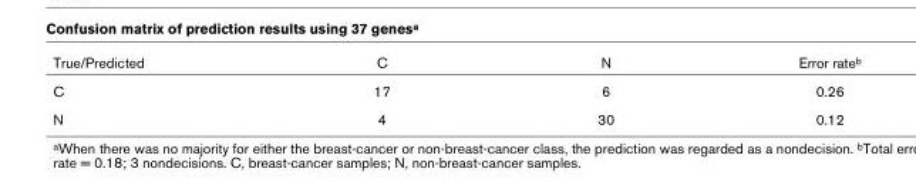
<table><thead><tr><td>True/Predicted</td><td>C</td><td>N</td><td>Error rateb</td></tr></thead><tbody><tr><td>C</td><td>17</td><td>6</td><td>0.26</td></tr><tr><td>N</td><td>4</td><td>30</td><td>0.12</td></tr></tbody></table>